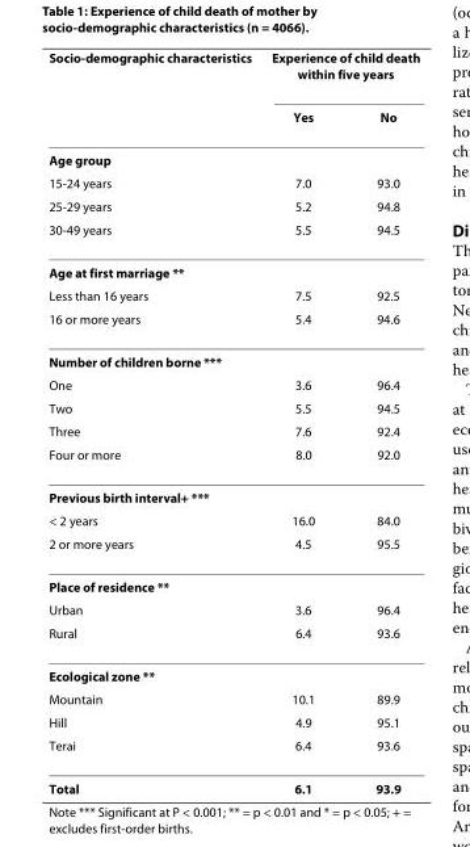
<table><thead><tr><td rowspan="2">Socio-demographic characteristics</td><td colspan="2">Experience of child death within five years</td></tr><tr><td>Yes</td><td>No</td></tr></thead><tbody><tr><td colspan="3">Age group</td></tr><tr><td>15-24 years</td><td>7.0</td><td>93.0</td></tr><tr><td>25-29 years</td><td>5.2</td><td>94.8</td></tr><tr><td>30-49 years</td><td>5.5</td><td>94.5</td></tr><tr><td colspan="3">Age at first marriage **</td></tr><tr><td>Less than 16 years</td><td>7.5</td><td>92.5</td></tr><tr><td>16 or more years</td><td>5.4</td><td>94.6</td></tr><tr><td colspan="3">Number of children borne ***</td></tr><tr><td>One</td><td>3.6</td><td>96.4</td></tr><tr><td>Two</td><td>5.5</td><td>94.5</td></tr><tr><td>Three</td><td>7.6</td><td>92.4</td></tr><tr><td>Four or more</td><td>8.0</td><td>92.0</td></tr><tr><td colspan="3">Previous birth interval+ ***</td></tr><tr><td>&lt; 2 years</td><td>16.0</td><td>84.0</td></tr><tr><td>2 or more years</td><td>4.5</td><td>95.5</td></tr><tr><td colspan="3">Place of residence **</td></tr><tr><td>Urban</td><td>3.6</td><td>96.4</td></tr><tr><td>Rural</td><td>6.4</td><td>93.6</td></tr><tr><td colspan="3">Ecological zone **</td></tr><tr><td>Mountain</td><td>10.1</td><td>89.9</td></tr><tr><td>Hill</td><td>4.9</td><td>95.1</td></tr><tr><td>Terai</td><td>6.4</td><td>93.6</td></tr><tr><td>Total</td><td>6.1</td><td>93.9</td></tr></tbody></table>